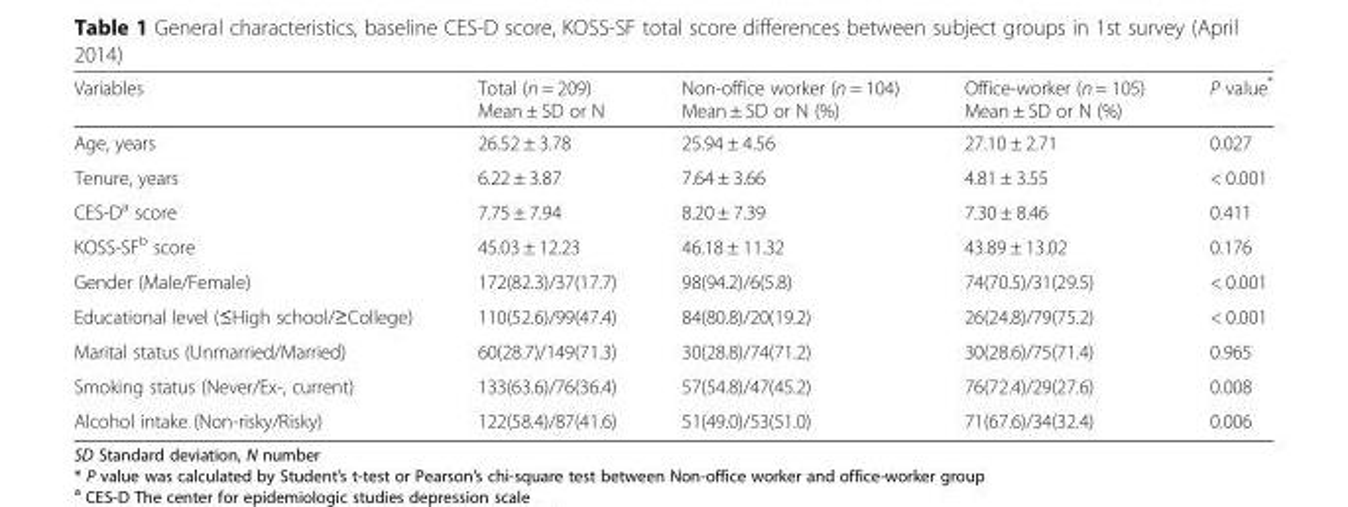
<table><thead><tr><td>Variables</td><td>Total (n = 209) Mean ± SD or N</td><td>Non-office worker (n = 104) Mean ± SD or N (%)</td><td>Office-worker (n = 105) Mean ± SD or N (%)</td><td>P value*</td></tr></thead><tbody><tr><td>Age, years</td><td>26.52 ± 3.78</td><td>25.94 ± 4.56</td><td>27.10 ± 2.71</td><td>0.027</td></tr><tr><td>Tenure, years</td><td>6.22 ± 3.87</td><td>7.64 ± 3.66</td><td>4.81 ± 3.55</td><td>&lt; 0.001</td></tr><tr><td>CES-D<sup>a</sup> score</td><td>7.75 ± 7.94</td><td>8.20 ± 7.39</td><td>7.30 ± 8.46</td><td>0.411</td></tr><tr><td>KOSS-SF<sup>b</sup> score</td><td>45.03 ± 12.23</td><td>46.18 ± 11.32</td><td>43.89 ± 13.02</td><td>0.176</td></tr><tr><td>Gender (Male/Female)</td><td>172(82.3)/37(17.7)</td><td>98(94.2)/6(5.8)</td><td>74(70.5)/31(29.5)</td><td>&lt; 0.001</td></tr><tr><td>Educational level (≤High school/≥College)</td><td>110(52.6)/99(47.4)</td><td>84(80.8)/20(19.2)</td><td>26(24.8)/79(75.2)</td><td>&lt; 0.001</td></tr><tr><td>Marital status (Unmarried/Married)</td><td>60(28.7)/149(71.3)</td><td>30(28.8)/74(71.2)</td><td>30(28.6)/75(71.4)</td><td>0.965</td></tr><tr><td>Smoking status (Never/Ex-, current)</td><td>133(63.6)/76(36.4)</td><td>57(54.8)/47(45.2)</td><td>76(72.4)/29(27.6)</td><td>0.008</td></tr><tr><td>Alcohol intake (Non-risky/Risky)</td><td>122(58.4)/87(41.6)</td><td>51(49.0)/53(51.0)</td><td>71(67.6)/34(32.4)</td><td>0.006</td></tr></tbody></table>